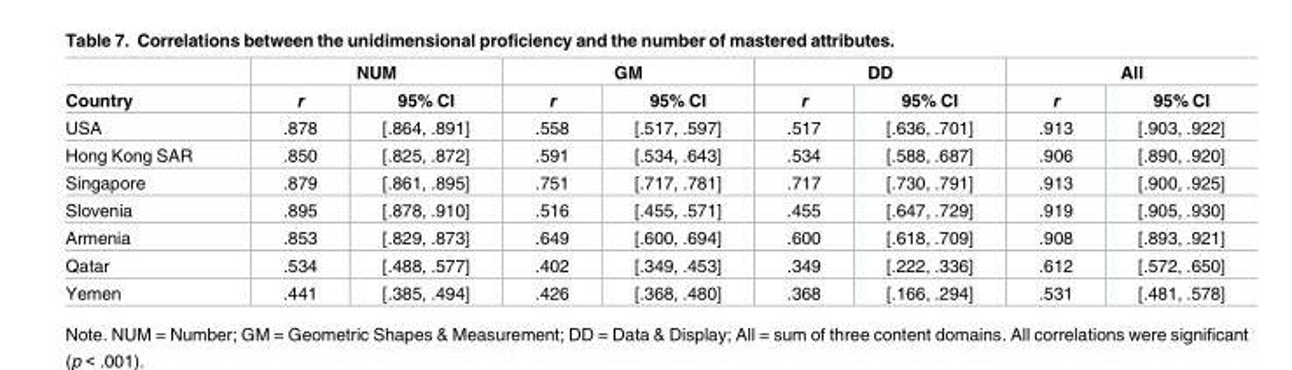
<table><thead><tr><td rowspan="2">Country</td><td colspan="2">NUM</td><td colspan="2">GM</td><td colspan="2">DD</td><td colspan="2">All</td></tr><tr><td>r</td><td>95% CI</td><td>r</td><td>95% CI</td><td>r</td><td>95% CI</td><td>r</td><td>95% CI</td></tr></thead><tbody><tr><td>USA</td><td>.878</td><td>[.864, .891]</td><td>.558</td><td>[.517, .597]</td><td>.517</td><td>[.636, .701]</td><td>.913</td><td>[.903, .922]</td></tr><tr><td>Hong Kong SAR</td><td>.850</td><td>[.825, .872]</td><td>.591</td><td>[.534, .643]</td><td>.534</td><td>[.588, .687]</td><td>.906</td><td>[.890, .920]</td></tr><tr><td>Singapore</td><td>.879</td><td>[.861, .895]</td><td>.751</td><td>[.717, .781]</td><td>.717</td><td>[.730, .791]</td><td>.913</td><td>[.900, .925]</td></tr><tr><td>Slovenia</td><td>.895</td><td>[.878, .910]</td><td>.516</td><td>[.455, .571]</td><td>.455</td><td>[.647, .729]</td><td>.919</td><td>[.905, .930]</td></tr><tr><td>Armenia</td><td>.853</td><td>[.829, .873]</td><td>.649</td><td>[.600, .694]</td><td>.600</td><td>[.618, .709]</td><td>.908</td><td>[.893, .921]</td></tr><tr><td>Qatar</td><td>.534</td><td>[.488, .577]</td><td>.402</td><td>[.349, .453]</td><td>.349</td><td>[.222, .336]</td><td>.612</td><td>[.572, .650]</td></tr><tr><td>Yemen</td><td>.441</td><td>[.385, .494]</td><td>.426</td><td>[.368, .480]</td><td>.368</td><td>[.166, .294]</td><td>.531</td><td>[.481, .578]</td></tr></tbody></table>